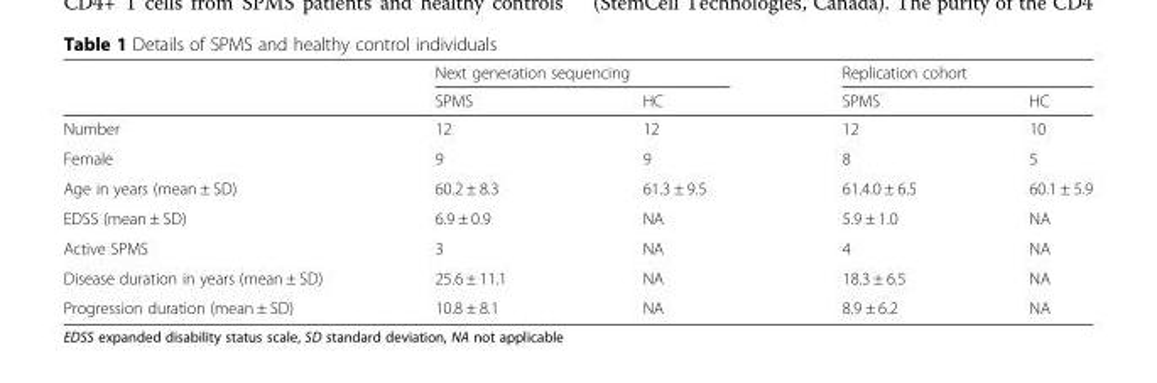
<table><thead><tr><td rowspan="2"></td><td colspan="2">Next generation sequencing</td><td colspan="2">Replication cohort</td></tr><tr><td>SPMS</td><td>HC</td><td>SPMS</td><td>HC</td></tr></thead><tbody><tr><td>Number</td><td>12</td><td>12</td><td>12</td><td>10</td></tr><tr><td>Female</td><td>9</td><td>9</td><td>8</td><td>5</td></tr><tr><td>Age in years (mean ± SD)</td><td>60.2 ± 8.3</td><td>61.3 ± 9.5</td><td>61.4.0 ± 6.5</td><td>60.1 ± 5.9</td></tr><tr><td>EDSS (mean ± SD)</td><td>6.9 ± 0.9</td><td>NA</td><td>5.9 ± 1.0</td><td>NA</td></tr><tr><td>Active SPMS</td><td>3</td><td>NA</td><td>4</td><td>NA</td></tr><tr><td>Disease duration in years (mean ± SD)</td><td>25.6 ± 11.1</td><td>NA</td><td>18.3 ± 6.5</td><td>NA</td></tr><tr><td>Progression duration (mean ± SD)</td><td>10.8 ± 8.1</td><td>NA</td><td>8.9 ± 6.2</td><td>NA</td></tr></tbody></table>